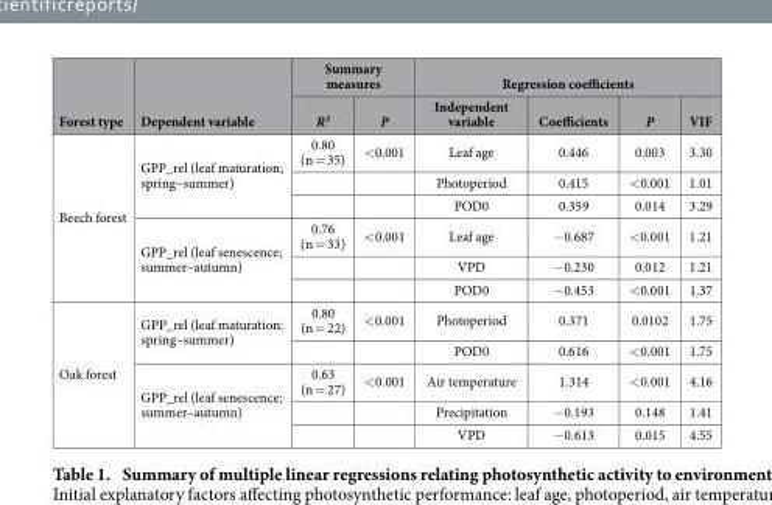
<table><thead><tr><td rowspan="2">Forest type</td><td rowspan="2">Dependent variable</td><td colspan="2">Summary measures</td><td colspan="4">Regression coefficients</td></tr><tr><td>R<sup>2</sup></td><td>P</td><td>Independent variable</td><td>Coefficients</td><td>P</td><td>VIF</td></tr></thead><tbody><tr><td rowspan="6">Beech forest</td><td rowspan="3">GPP_rel (leaf maturation; spring–summer)</td><td>0.80 (n = 35)</td><td>&lt; 0.001</td><td>Leaf age</td><td>0.446</td><td>0.003</td><td>3.30</td></tr><tr><td></td><td></td><td>Photoperiod</td><td>0.415</td><td>&lt; 0.001</td><td>1.01</td></tr><tr><td></td><td></td><td>POD0</td><td>0.359</td><td>0.014</td><td>3.29</td></tr><tr><td rowspan="3">GPP_rel (leaf senescence; summer–autumn)</td><td>0.76 (n = 33)</td><td>&lt; 0.001</td><td>Leaf age</td><td>− 0.687</td><td>&lt; 0.001</td><td>1.21</td></tr><tr><td></td><td></td><td>VPD</td><td>− 0.230</td><td>0.012</td><td>1.21</td></tr><tr><td></td><td></td><td>POD0</td><td>− 0.453</td><td>&lt; 0.001</td><td>1.37</td></tr><tr><td rowspan="5">Oak forest</td><td rowspan="2">GPP_rel (leaf maturation: spring–summer)</td><td>0.80 (n = 22)</td><td>&lt; 0.001</td><td>Photoperiod</td><td>0.371</td><td>0.0102</td><td>1.75</td></tr><tr><td></td><td></td><td>POD0</td><td>0.616</td><td>&lt; 0.001</td><td>1.75</td></tr><tr><td rowspan="3">GPP_rel (leaf senescence; summer–autumn)</td><td>0.63 (n = 27)</td><td>&lt; 0.001</td><td>Air temperature</td><td>1.314</td><td>&lt; 0.001</td><td>4.16</td></tr><tr><td></td><td></td><td>Precipitation</td><td>− 0.193</td><td>0.148</td><td>1.41</td></tr><tr><td></td><td></td><td>VPD</td><td>− 0.613</td><td>0.015</td><td>4.55</td></tr></tbody></table>